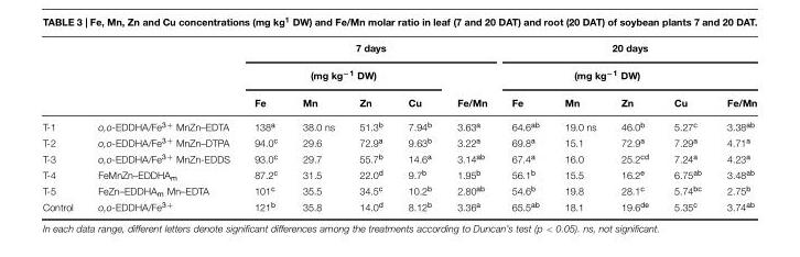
<table><thead><tr><td rowspan="3"></td><td rowspan="3"></td><td colspan="5">7 days</td><td rowspan="2" colspan="5">20 days (mg kg<sup>−1</sup> DW)</td></tr><tr><td colspan="4">(mg kg<sup>−1</sup> DW)</td><td rowspan="2">Fe/Mn</td></tr><tr><td>Fe</td><td>Mn</td><td>Zn</td><td>Cu</td><td>Fe</td><td>Mn</td><td>Zn</td><td>Cu</td><td>Fe/Mn</td></tr></thead><tbody><tr><td>T-1</td><td>o,o-EDDHA/Fe<sup>3+</sup> MnZn–EDTA</td><td>138<sup>a</sup></td><td>38.0 ns</td><td>51.3<sup>b</sup></td><td>7.94<sup>b</sup></td><td>3.63<sup>a</sup></td><td>64.6<sup>ab</sup></td><td>19.0 ns</td><td>46.0<sup>b</sup></td><td>5.27<sup>c</sup></td><td>3.38<sup>ab</sup></td></tr><tr><td>T-2</td><td>o,o-EDDHA/Fe<sup>3+</sup> MnZn–DTPA</td><td>94.0<sup>c</sup></td><td>29.6</td><td>72.9<sup>a</sup></td><td>9.63<sup>b</sup></td><td>3.22<sup>a</sup></td><td>69.8<sup>a</sup></td><td>15.1</td><td>72.9<sup>a</sup></td><td>7.29<sup>a</sup></td><td>4.71<sup>a</sup></td></tr><tr><td>T-3</td><td>o,o-EDDHA/Fe<sup>3+</sup> MnZn-EDDS</td><td>93.0<sup>c</sup></td><td>29.7</td><td>55.7<sup>b</sup></td><td>14.6<sup>a</sup></td><td>3.14<sup>ab</sup></td><td>67.4<sup>a</sup></td><td>16.0</td><td>25.2<sup>cd</sup></td><td>7.24<sup>a</sup></td><td>4.23<sup>a</sup></td></tr><tr><td>T-4</td><td>FeMnZn–EDDHA<sub>m</sub></td><td>87.2<sup>c</sup></td><td>31.5</td><td>22.0<sup>d</sup></td><td>9.7<sup>b</sup></td><td>1.95<sup>b</sup></td><td>56.1<sup>b</sup></td><td>15.5</td><td>16.2<sup>e</sup></td><td>6.75<sup>ab</sup></td><td>3.48<sup>ab</sup></td></tr><tr><td>T-5</td><td>FeZn–EDDHA<sub>m</sub> Mn–EDTA</td><td>101<sup>c</sup></td><td>35.5</td><td>34.5<sup>c</sup></td><td>10.2<sup>b</sup></td><td>2.80<sup>ab</sup></td><td>54.6<sup>b</sup></td><td>19.8</td><td>28.1<sup>c</sup></td><td>5.74<sup>bc</sup></td><td>2.75<sup>b</sup></td></tr><tr><td>Control</td><td>o,o-EDDHA/Fe<sup>3+</sup></td><td>121<sup>b</sup></td><td>35.8</td><td>14.0<sup>d</sup></td><td>8.12<sup>b</sup></td><td>3.36<sup>a</sup></td><td>65.5<sup>ab</sup></td><td>18.1</td><td>19.6<sup>de</sup></td><td>5.35<sup>c</sup></td><td>3.74<sup>ab</sup></td></tr></tbody></table>